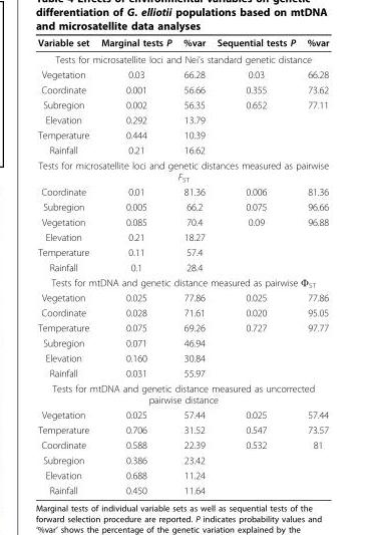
<table><thead><tr><td>Variable set</td><td>Marginal tests P</td><td>%var</td><td>Sequential tests P</td><td>%var</td></tr></thead><tbody><tr><td colspan="5">Tests for microsatellite loci and Nei’s standard genetic distance</td></tr><tr><td>Vegetation</td><td>0.03</td><td>66.28</td><td>0.03</td><td>66.28</td></tr><tr><td>Coordinate</td><td>0.001</td><td>56.66</td><td>0.355</td><td>73.62</td></tr><tr><td>Subregion</td><td>0.002</td><td>56.35</td><td>0.652</td><td>77.11</td></tr><tr><td>Elevation</td><td>0.292</td><td>13.79</td><td></td><td></td></tr><tr><td>Temperature</td><td>0.444</td><td>10.39</td><td></td><td></td></tr><tr><td>Rainfall</td><td>0.21</td><td>16.62</td><td></td><td></td></tr><tr><td colspan="5">Tests for microsatellite loci and genetic distances measured as pairwise F<sub>ST</sub></td></tr><tr><td>Coordinate</td><td>0.01</td><td>81.36</td><td>0.006</td><td>81.36</td></tr><tr><td>Subregion</td><td>0.005</td><td>66.2</td><td>0.075</td><td>96.66</td></tr><tr><td>Vegetation</td><td>0.085</td><td>70.4</td><td>0.09</td><td>96.88</td></tr><tr><td>Elevation</td><td>0.21</td><td>18.27</td><td></td><td></td></tr><tr><td>Temperature</td><td>0.11</td><td>57.4</td><td></td><td></td></tr><tr><td>Rainfall</td><td>0.1</td><td>28.4</td><td></td><td></td></tr><tr><td colspan="5">Tests for mtDNA and genetic distance measured as pairwise Φ<sub>ST</sub></td></tr><tr><td>Vegetation</td><td>0.025</td><td>77.86</td><td>0.025</td><td>77.86</td></tr><tr><td>Coordinate</td><td>0.028</td><td>71.61</td><td>0.020</td><td>95.05</td></tr><tr><td>Temperature</td><td>0.075</td><td>69.26</td><td>0.727</td><td>97.77</td></tr><tr><td>Subregion</td><td>0.071</td><td>46.94</td><td></td><td></td></tr><tr><td>Elevation</td><td>0.160</td><td>30.84</td><td></td><td></td></tr><tr><td>Rainfall</td><td>0.031</td><td>55.97</td><td></td><td></td></tr><tr><td colspan="5">Tests for mtDNA and genetic distance measured as uncorrected pairwise distance</td></tr><tr><td>Vegetation</td><td>0.025</td><td>57.44</td><td>0.025</td><td>57.44</td></tr><tr><td>Temperature</td><td>0.706</td><td>31.52</td><td>0.547</td><td>73.57</td></tr><tr><td>Coordinate</td><td>0.588</td><td>22.39</td><td>0.532</td><td>81</td></tr><tr><td>Subregion</td><td>0.386</td><td>23.42</td><td></td><td></td></tr><tr><td>Elevation</td><td>0.688</td><td>11.24</td><td></td><td></td></tr><tr><td>Rainfall</td><td>0.450</td><td>11.64</td><td></td><td></td></tr></tbody></table>